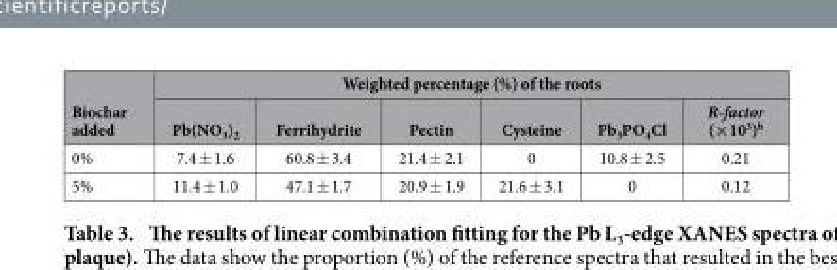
<table><thead><tr><td rowspan="2">Biochar added</td><td colspan="6">Weighted percentage (%) of the roots</td></tr><tr><td>Pb(NO<sub>3</sub>)<sub>2</sub></td><td>Ferrihydrite</td><td>Pectin</td><td>Cysteine</td><td>Pb<sub>5</sub>PO<sub>4</sub>Cl</td><td>R-factor (×10<sup>3</sup>)<sup>b</sup></td></tr></thead><tbody><tr><td>0%</td><td>7.4 ± 1.6</td><td>60.8 ± 3.4</td><td>21.4 ± 2.1</td><td>0</td><td>10.8 ± 2.5</td><td>0.21</td></tr><tr><td>5%</td><td>11.4 ± 1.0</td><td>47.1 ± 1.7</td><td>20.9 ± 1.9</td><td>21.6 ± 3.1</td><td>0</td><td>0.12</td></tr></tbody></table>